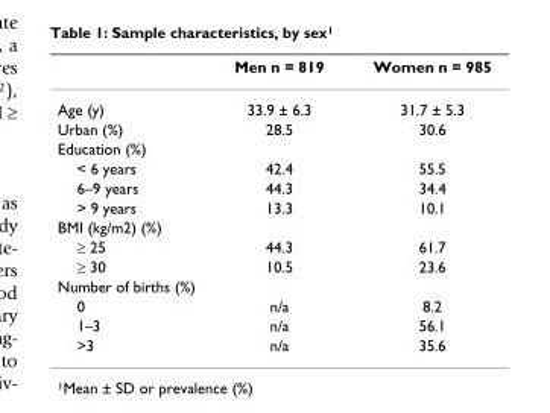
<table><thead><tr><td></td><td>Men n = 819</td><td>Women n = 985</td></tr></thead><tbody><tr><td>Age (y)</td><td>33.9 ± 6.3</td><td>31.7 ± 5.3</td></tr><tr><td>Urban (%)</td><td>28.5</td><td>30.6</td></tr><tr><td colspan="3">Education (%)</td></tr><tr><td>&lt; 6 years</td><td>42.4</td><td>55.5</td></tr><tr><td>6–9 years</td><td>44.3</td><td>34.4</td></tr><tr><td>&gt; 9 years</td><td>13.3</td><td>10.1</td></tr><tr><td colspan="3">BMI (kg/m2) (%)</td></tr><tr><td>≥ 25</td><td>44.3</td><td>61.7</td></tr><tr><td>≥ 30</td><td>10.5</td><td>23.6</td></tr><tr><td colspan="3">Number of births (%)</td></tr><tr><td>0</td><td>n/a</td><td>8.2</td></tr><tr><td>1–3</td><td>n/a</td><td>56.1</td></tr><tr><td>&gt;3</td><td>n/a</td><td>35.6</td></tr></tbody></table>